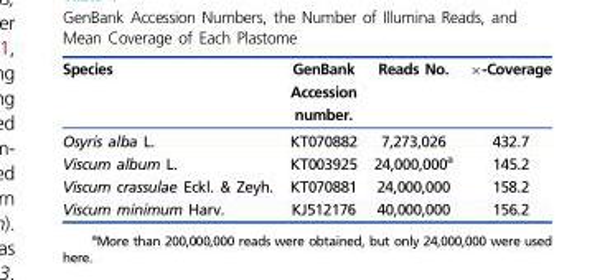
<table><thead><tr><td>Species</td><td>GenBank Accession number.</td><td>Reads No.</td><td>×-Coverage</td></tr></thead><tbody><tr><td>Osyris alba L.</td><td>KT070882</td><td>7,273,026</td><td>432.7</td></tr><tr><td>Viscum album L.</td><td>KT003925</td><td>24,000,000<sup>a</sup></td><td>145.2</td></tr><tr><td>Viscum crassulae Eckl. &amp; Zeyh.</td><td>KT070881</td><td>24,000,000</td><td>158.2</td></tr><tr><td>Viscum minimum Harv.</td><td>KJ512176</td><td>40,000,000</td><td>156.2</td></tr></tbody></table>